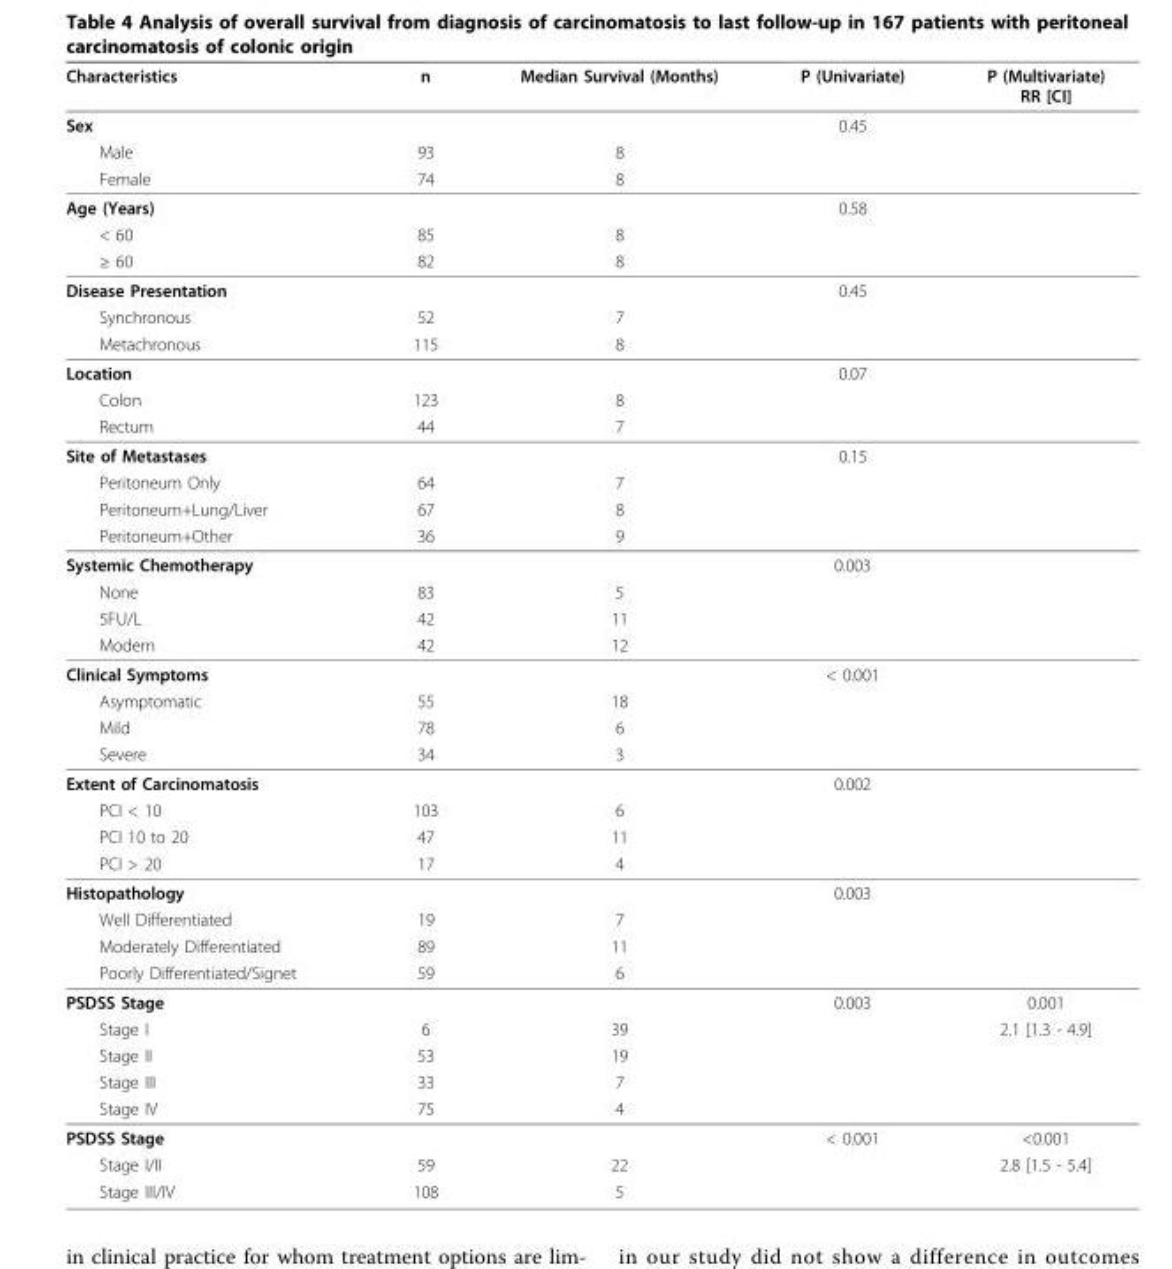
<table><thead><tr><td>Characteristics</td><td>n</td><td>Median Survival (Months)</td><td>P (Univariate)</td><td>P (Multivariate) RR [CI]</td></tr></thead><tbody><tr><td>Sex</td><td></td><td></td><td>0.45</td><td></td></tr><tr><td>Male</td><td>93</td><td>8</td><td></td><td></td></tr><tr><td>Female</td><td>74</td><td>8</td><td></td><td></td></tr><tr><td>Age (Years)</td><td></td><td></td><td>0.58</td><td></td></tr><tr><td>&lt; 60</td><td>85</td><td>8</td><td></td><td></td></tr><tr><td>≥ 60</td><td>82</td><td>8</td><td></td><td></td></tr><tr><td>Disease Presentation</td><td></td><td></td><td>0.45</td><td></td></tr><tr><td>Synchronous</td><td>52</td><td>7</td><td></td><td></td></tr><tr><td>Metachronous</td><td>115</td><td>8</td><td></td><td></td></tr><tr><td>Location</td><td></td><td></td><td>0.07</td><td></td></tr><tr><td>Colon</td><td>123</td><td>8</td><td></td><td></td></tr><tr><td>Rectum</td><td>44</td><td>7</td><td></td><td></td></tr><tr><td>Site of Metastases</td><td></td><td></td><td>0.15</td><td></td></tr><tr><td>Peritoneum Only</td><td>64</td><td>7</td><td></td><td></td></tr><tr><td>Peritoneum+Lung/Liver</td><td>67</td><td>8</td><td></td><td></td></tr><tr><td>Peritoneum+Other</td><td>36</td><td>9</td><td></td><td></td></tr><tr><td>Systemic Chemotherapy</td><td></td><td></td><td>0.003</td><td></td></tr><tr><td>None</td><td>83</td><td>5</td><td></td><td></td></tr><tr><td>5FU/L</td><td>42</td><td>11</td><td></td><td></td></tr><tr><td>Modern</td><td>42</td><td>12</td><td></td><td></td></tr><tr><td>Clinical Symptoms</td><td></td><td></td><td>&lt; 0.001</td><td></td></tr><tr><td>Asymptomatic</td><td>55</td><td>18</td><td></td><td></td></tr><tr><td>Mild</td><td>78</td><td>6</td><td></td><td></td></tr><tr><td>Severe</td><td>34</td><td>3</td><td></td><td></td></tr><tr><td>Extent of Carcinomatosis</td><td></td><td></td><td>0.002</td><td></td></tr><tr><td>PCI &lt; 10</td><td>103</td><td>6</td><td></td><td></td></tr><tr><td>PCI 10 to 20</td><td>47</td><td>11</td><td></td><td></td></tr><tr><td>PCI &gt; 20</td><td>17</td><td>4</td><td></td><td></td></tr><tr><td>Histopathology</td><td></td><td></td><td>0.003</td><td></td></tr><tr><td>Well Differentiated</td><td>19</td><td>7</td><td></td><td></td></tr><tr><td>Moderately Differentiated</td><td>89</td><td>11</td><td></td><td></td></tr><tr><td>Poorly Differentiated/Signet</td><td>59</td><td>6</td><td></td><td></td></tr><tr><td>PSDSS Stage</td><td></td><td></td><td>0.003</td><td>0.001</td></tr><tr><td>Stage I</td><td>6</td><td>39</td><td></td><td>2.1 [1.3 - 4.9]</td></tr><tr><td>Stage II</td><td>53</td><td>19</td><td></td><td></td></tr><tr><td>Stage III</td><td>33</td><td>7</td><td></td><td></td></tr><tr><td>Stage IV</td><td>75</td><td>4</td><td></td><td></td></tr><tr><td>PSDSS Stage</td><td></td><td></td><td>&lt; 0.001</td><td>&lt;0.001</td></tr><tr><td>Stage I/II</td><td>59</td><td>22</td><td></td><td>2.8 [1.5 - 5.4]</td></tr><tr><td>Stage III/IV</td><td>108</td><td>5</td><td></td><td></td></tr></tbody></table>